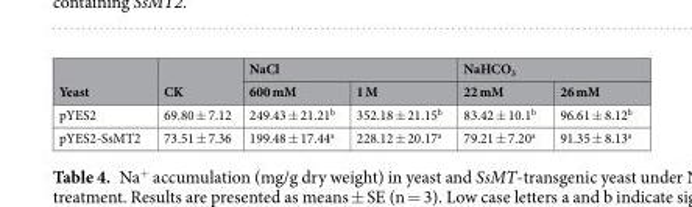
<table><thead><tr><td rowspan="2">Yeast</td><td rowspan="2">CK</td><td colspan="2">NaCl</td><td colspan="2">NaHCO<sub>3</sub></td></tr><tr><td>600 mM</td><td>1 M</td><td>22 mM</td><td>26 mM</td></tr></thead><tbody><tr><td>pYES2</td><td>69.80 ± 7.12</td><td>249.43 ± 21.21<sup>b</sup></td><td>352.18 ± 21.15<sup>b</sup></td><td>83.42 ± 10.1<sup>b</sup></td><td>96.61 ± 8.12<sup>b</sup></td></tr><tr><td>pYES2-SsMT2</td><td>73.51 ± 7.36</td><td>199.48 ± 17.44<sup>a</sup></td><td>228.12 ± 20.17<sup>a</sup></td><td>79.21 ± 7.20<sup>a</sup></td><td>91.35 ± 8.13<sup>a</sup></td></tr></tbody></table>